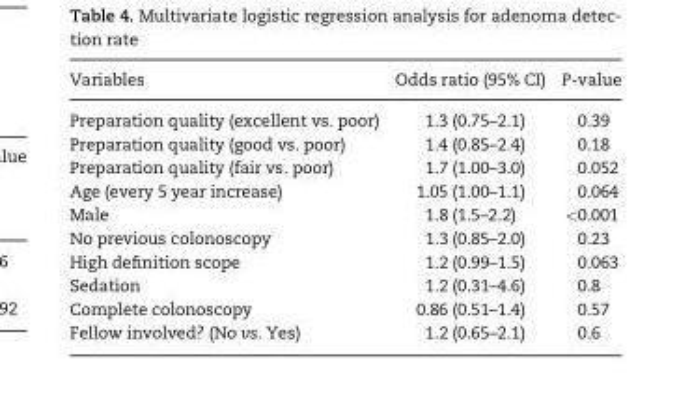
<table><thead><tr><td>Variables</td><td>Odds ratio (95% CI)</td><td>P-value</td></tr></thead><tbody><tr><td>Preparation quality (excellent vs. poor)</td><td>1.3 (0.75–2.1)</td><td>0.39</td></tr><tr><td>Preparation quality (good vs. poor)</td><td>1.4 (0.85–2.4)</td><td>0.18</td></tr><tr><td>Preparation quality (fair vs. poor)</td><td>1.7 (1.00–3.0)</td><td>0.052</td></tr><tr><td>Age (every 5 year increase)</td><td>1.05 (1.00–1.1)</td><td>0.064</td></tr><tr><td>Male</td><td>1.8 (1.5–2.2)</td><td>&lt;0.001</td></tr><tr><td>No previous colonoscopy</td><td>1.3 (0.85–2.0)</td><td>0.23</td></tr><tr><td>High definition scope</td><td>1.2 (0.99–1.5)</td><td>0.063</td></tr><tr><td>Sedation</td><td>1.2 (0.31–4.6)</td><td>0.8</td></tr><tr><td>Complete colonoscopy</td><td>0.86 (0.51–1.4)</td><td>0.57</td></tr><tr><td>Fellow involved? (No vs. Yes)</td><td>1.2 (0.65–2.1)</td><td>0.6</td></tr></tbody></table>